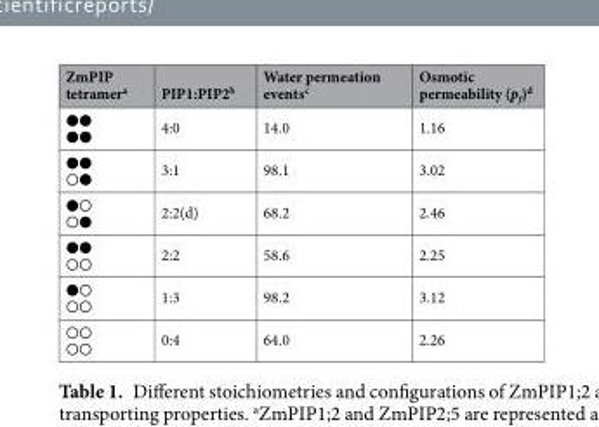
<table><thead><tr><td>ZmPIP tetramer<sup>a</sup></td><td>PIP1:PIP2<sup>b</sup></td><td>Water permeation events<sup>c</sup></td><td>Osmotic permeability (p<sub>f</sub>)<sup>d</sup></td></tr></thead><tbody><tr><td>●● ●●</td><td>4:0</td><td>14.0</td><td>1.16</td></tr><tr><td>●● ○●</td><td>3:1</td><td>98.1</td><td>3.02</td></tr><tr><td>●○ ○●</td><td>2:2(d)</td><td>68.2</td><td>2.46</td></tr><tr><td>●● ○○</td><td>2:2</td><td>58.6</td><td>2.25</td></tr><tr><td>●○ ○○</td><td>1:3</td><td>98.2</td><td>3.12</td></tr><tr><td>○○ ○○</td><td>0:4</td><td>64.0</td><td>2.26</td></tr></tbody></table>